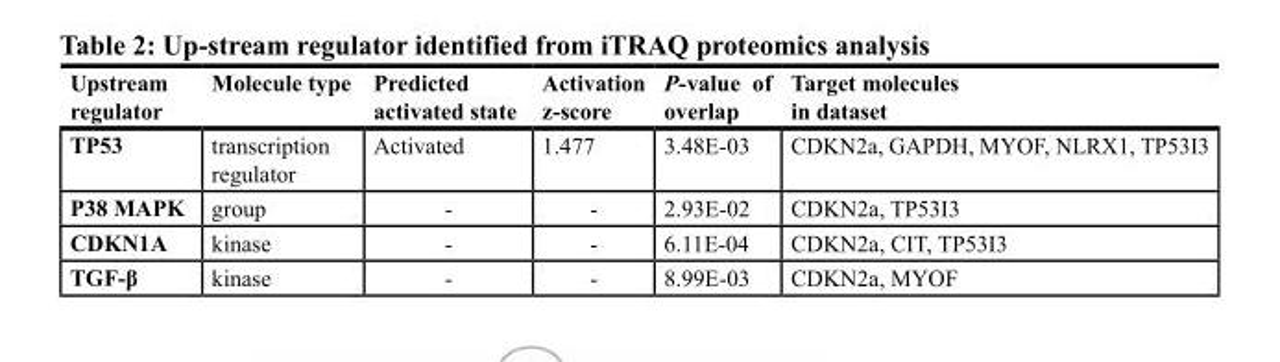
<table><thead><tr><td>Upstream regulator</td><td>Molecule type</td><td>Predicted activated state</td><td>Activation z-score</td><td>P-value of overlap</td><td>Target molecules in dataset</td></tr></thead><tbody><tr><td>TP53</td><td>transcription regulator</td><td>Activated</td><td>1.477</td><td>3.48E-03</td><td>CDKN2a, GAPDH, MYOF, NLRX1, TP53I3</td></tr><tr><td>P38 MAPK</td><td>group</td><td>-</td><td>-</td><td>2.93E-02</td><td>CDKN2a, TP53I3</td></tr><tr><td>CDKN1A</td><td>kinase</td><td>-</td><td>-</td><td>6.11E-04</td><td>CDKN2a, CIT, TP53I3</td></tr><tr><td>TGF-β</td><td>kinase</td><td>-</td><td>-</td><td>8.99E-03</td><td>CDKN2a, MYOF</td></tr></tbody></table>